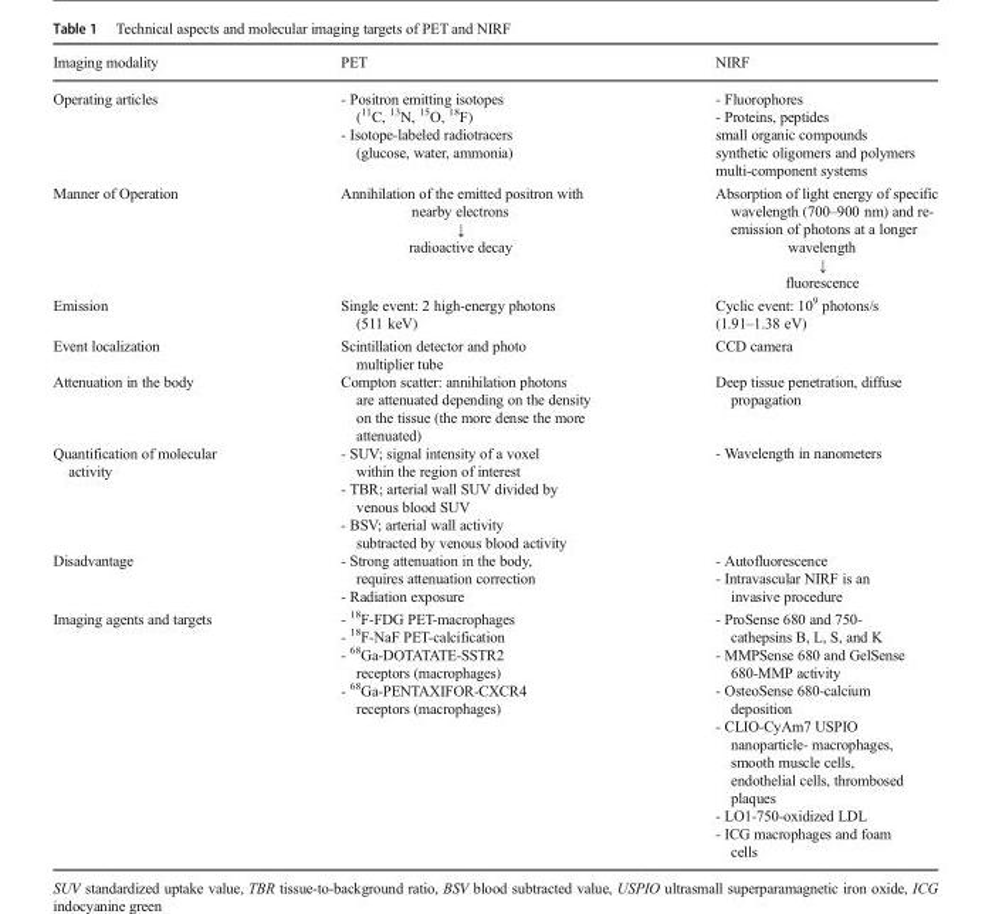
<table><thead><tr><td>Imaging modality</td><td>PET</td><td>NIRF</td></tr></thead><tbody><tr><td>Operating articles</td><td>- Positron emitting isotopes (<sup>11</sup>C, <sup>13</sup>N, <sup>15</sup>O, <sup>18</sup>F) - Isotope-labeled radiotracers (glucose, water, ammonia)</td><td>- Fluorophores - Proteins, peptides small organic compounds synthetic oligomers and polymers multi-component systems</td></tr><tr><td>Manner of Operation</td><td>Annihilation of the emitted positron with nearby electrons ↓ radioactive decay</td><td>Absorption of light energy of specific wavelength (700–900 nm) and re- emission of photons at a longer wavelength ↓ fluorescence</td></tr><tr><td>Emission</td><td>Single event: 2 high-energy photons (511 keV)</td><td>Cyclic event: 10<sup>9</sup> photons/s (1.91–1.38 eV)</td></tr><tr><td>Event localization</td><td>Scintillation detector and photo multiplier tube</td><td>CCD camera</td></tr><tr><td>Attenuation in the body</td><td>Compton scatter: annihilation photons are attenuated depending on the density on the tissue (the more dense the more attenuated)</td><td>Deep tissue penetration, diffuse propagation</td></tr><tr><td>Quantification of molecular activity</td><td>- SUV; signal intensity of a voxel within the region of interest - TBR; arterial wall SUV divided by venous blood SUV - BSV; arterial wall activity subtracted by venous blood activity</td><td>- Wavelength in nanometers</td></tr><tr><td>Disadvantage</td><td>- Strong attenuation in the body, requires attenuation correction - Radiation exposure</td><td>- Autofluorescence - Intravascular NIRF is an invasive procedure</td></tr><tr><td>Imaging agents and targets</td><td>- <sup>18</sup>F-FDG PET-macrophages - <sup>18</sup>F-NaF PET-calcification - <sup>68</sup>Ga-DOTATATE-SSTR2 receptors (macrophages) - <sup>68</sup>Ga-PENTAXIFOR-CXCR4 receptors (macrophages)</td><td>- ProSense 680 and 750- cathepsins B, L, S, and K - MMPSense 680 and GelSense 680-MMP activity - OsteoSense 680-calcium deposition - CLIO-CyAm7 USPIO nanoparticle- macrophages, smooth muscle cells, endothelial cells, thrombosed plaques - LO1-750-oxidized LDL - ICG macrophages and foam cells</td></tr></tbody></table>